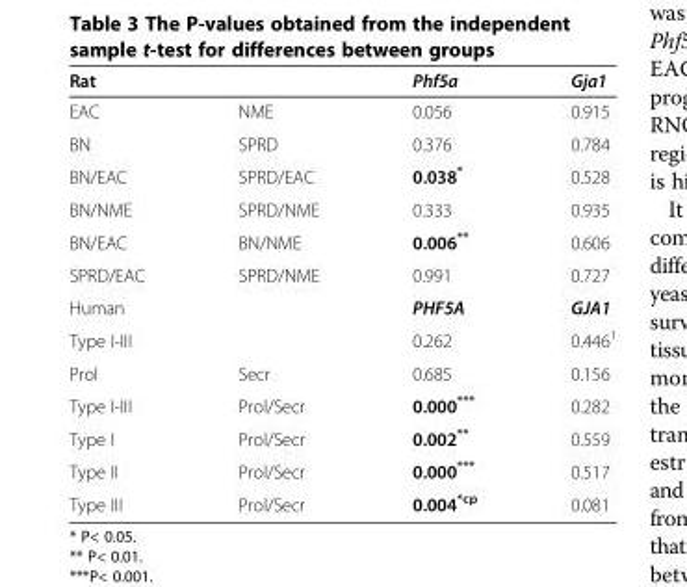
<table><thead><tr><td>Rat</td><td></td><td>Phf5a</td><td>Gja1</td></tr></thead><tbody><tr><td>EAC</td><td>NME</td><td>0.056</td><td>0.915</td></tr><tr><td>BN</td><td>SPRD</td><td>0.376</td><td>0.784</td></tr><tr><td>BN/EAC</td><td>SPRD/EAC</td><td>0.038*</td><td>0.528</td></tr><tr><td>BN/NME</td><td>SPRD/NME</td><td>0.333</td><td>0.935</td></tr><tr><td>BN/EAC</td><td>BN/NME</td><td>0.006**</td><td>0.606</td></tr><tr><td>SPRD/EAC</td><td>SPRD/NME</td><td>0.991</td><td>0.727</td></tr><tr><td>Human</td><td></td><td>PHF5A</td><td>GJA1</td></tr><tr><td>Type I-III</td><td></td><td>0.262</td><td>0.446<sup>1</sup></td></tr><tr><td>Prol</td><td>Secr</td><td>0.685</td><td>0.156</td></tr><tr><td>Type I-III</td><td>Prol/Secr</td><td>0.000***</td><td>0.282</td></tr><tr><td>Type I</td><td>Prol/Secr</td><td>0.002**</td><td>0.559</td></tr><tr><td>Type II</td><td>Prol/Secr</td><td>0.000***</td><td>0.517</td></tr><tr><td>Type III</td><td>Prol/Secr</td><td>0.004<sup>*cp</sup></td><td>0.081</td></tr></tbody></table>